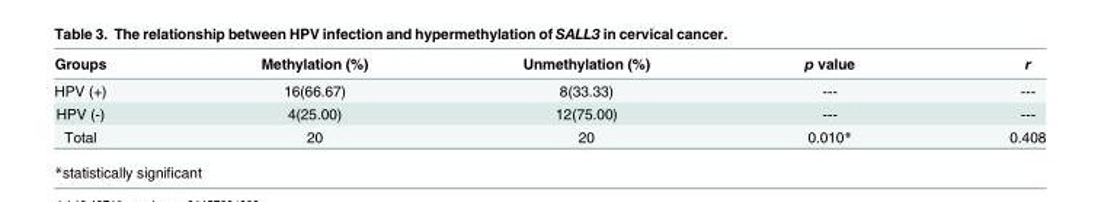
<table><thead><tr><td>Groups</td><td>Methylation (%)</td><td>Unmethylation (%)</td><td>p value</td><td>r</td></tr></thead><tbody><tr><td>HPV (+)</td><td>16(66.67)</td><td>8(33.33)</td><td>---</td><td>---</td></tr><tr><td>HPV (-)</td><td>4(25.00)</td><td>12(75.00)</td><td>---</td><td>---</td></tr><tr><td>Total</td><td>20</td><td>20</td><td>0.010*</td><td>0.408</td></tr></tbody></table>